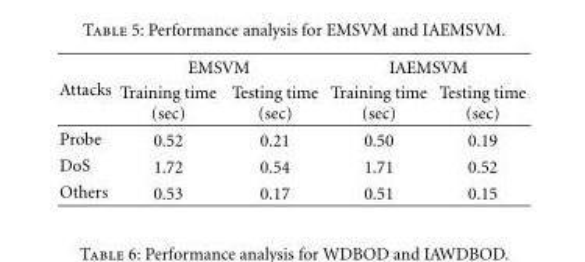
<table><thead><tr><td rowspan="2">Attacks</td><td colspan="2">EMSVM</td><td colspan="2">IAEMSVM</td></tr><tr><td>Training time (sec)</td><td>Testing time (sec)</td><td>Training time (sec)</td><td>Testing time (sec)</td></tr></thead><tbody><tr><td>Probe</td><td>0.52</td><td>0.21</td><td>0.50</td><td>0.19</td></tr><tr><td>DoS</td><td>1.72</td><td>0.54</td><td>1.71</td><td>0.52</td></tr><tr><td>Others</td><td>0.53</td><td>0.17</td><td>0.51</td><td>0.15</td></tr></tbody></table>